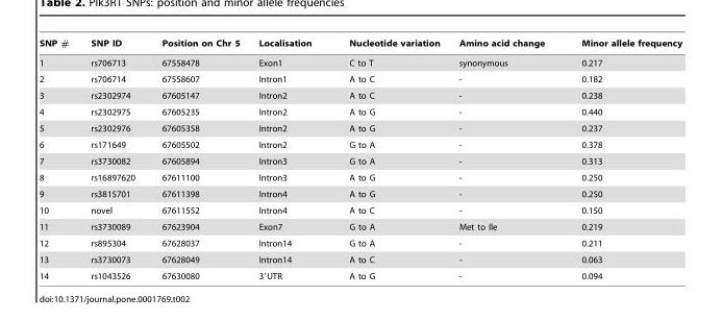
<table><thead><tr><td>SNP #</td><td>SNP ID</td><td>Position on Chr 5</td><td>Localisation</td><td>Nucleotide variation</td><td>Amino acid change</td><td>Minor allele frequency</td></tr></thead><tbody><tr><td>1</td><td>rs706713</td><td>67558478</td><td>Exon1</td><td>C to T</td><td>synonymous</td><td>0.217</td></tr><tr><td>2</td><td>rs706714</td><td>67558607</td><td>Intron1</td><td>A to C</td><td>-</td><td>0.182</td></tr><tr><td>3</td><td>rs2302974</td><td>67605147</td><td>Intron2</td><td>A to C</td><td>-</td><td>0.238</td></tr><tr><td>4</td><td>rs2302975</td><td>67605235</td><td>Intron2</td><td>A to G</td><td>-</td><td>0.440</td></tr><tr><td>5</td><td>rs2302976</td><td>67605358</td><td>Intron2</td><td>A to G</td><td>-</td><td>0.237</td></tr><tr><td>6</td><td>rs171649</td><td>67605502</td><td>Intron2</td><td>G to A</td><td>-</td><td>0.378</td></tr><tr><td>7</td><td>rs3730082</td><td>67605894</td><td>Intron3</td><td>G to A</td><td>-</td><td>0.313</td></tr><tr><td>8</td><td>rs16897620</td><td>67611100</td><td>Intron3</td><td>A to G</td><td>-</td><td>0.250</td></tr><tr><td>9</td><td>rs3815701</td><td>67611398</td><td>Intron4</td><td>A to G</td><td>-</td><td>0.250</td></tr><tr><td>10</td><td>novel</td><td>67611552</td><td>Intron4</td><td>A to C</td><td>-</td><td>0.150</td></tr><tr><td>11</td><td>rs3730089</td><td>67623904</td><td>Exon7</td><td>G to A</td><td>Met to Ile</td><td>0.219</td></tr><tr><td>12</td><td>rs895304</td><td>67628037</td><td>Intron14</td><td>G to A</td><td>-</td><td>0.211</td></tr><tr><td>13</td><td>rs3730073</td><td>67628049</td><td>Intron14</td><td>A to C</td><td>-</td><td>0.063</td></tr><tr><td>14</td><td>rs1043526</td><td>67630080</td><td>3′UTR</td><td>A to G</td><td>-</td><td>0.094</td></tr></tbody></table>